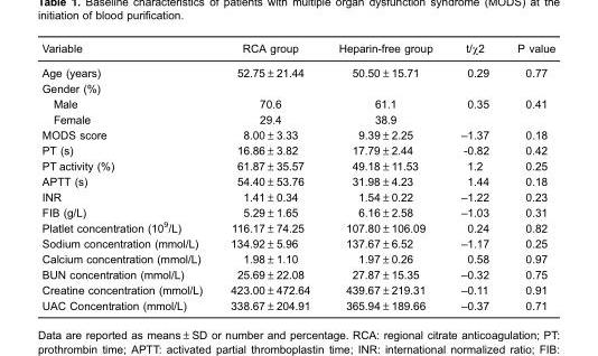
<table><thead><tr><td>Variable</td><td>RCA group</td><td>Heparin-free group</td><td>t/χ2</td><td>P value</td></tr></thead><tbody><tr><td>Age (years)</td><td>52.75±21.44</td><td>50.50±15.71</td><td>0.29</td><td>0.77</td></tr><tr><td colspan="5">Gender (%)</td></tr><tr><td>Male</td><td>70.6</td><td>61.1</td><td>0.35</td><td>0.41</td></tr><tr><td>Female</td><td>29.4</td><td>38.9</td><td></td><td></td></tr><tr><td>MODS score</td><td>8.00±3.33</td><td>9.39±2.25</td><td>–1.37</td><td>0.18</td></tr><tr><td>PT (s)</td><td>16.86±3.82</td><td>17.79±2.44</td><td>-0.82</td><td>0.42</td></tr><tr><td>PT activity (%)</td><td>61.87±35.57</td><td>49.18±11.53</td><td>1.2</td><td>0.25</td></tr><tr><td>APTT (s)</td><td>54.40±53.76</td><td>31.98±4.23</td><td>1.44</td><td>0.18</td></tr><tr><td>INR</td><td>1.41±0.34</td><td>1.54±0.22</td><td>–1.22</td><td>0.23</td></tr><tr><td>FIB (g/L)</td><td>5.29±1.65</td><td>6.16±2.58</td><td>–1.03</td><td>0.31</td></tr><tr><td>Platlet concentration (109/L)</td><td>116.17±74.25</td><td>107.80±106.09</td><td>0.24</td><td>0.82</td></tr><tr><td>Sodium concentration (mmol/L)</td><td>134.92±5.96</td><td>137.67±6.52</td><td>–1.17</td><td>0.25</td></tr><tr><td>Calcium concentration (mmol/L)</td><td>1.98±1.10</td><td>1.97±0.26</td><td>0.58</td><td>0.97</td></tr><tr><td>BUN concentration (mmol/L)</td><td>25.69±22.08</td><td>27.87±15.35</td><td>–0.32</td><td>0.75</td></tr><tr><td>Creatine concentration (mmol/L)</td><td>423.00±472.64</td><td>439.67±219.31</td><td>–0.11</td><td>0.91</td></tr><tr><td>UAC Concentration (mmol/L)</td><td>338.67±204.91</td><td>365.94±189.66</td><td>–0.37</td><td>0.71</td></tr></tbody></table>